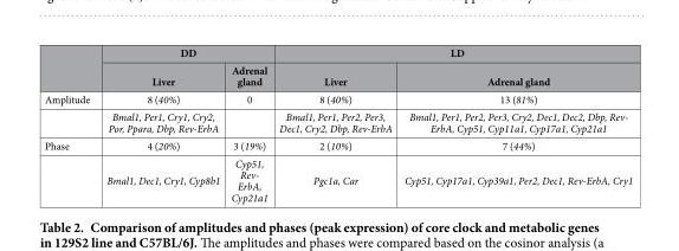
<table><thead><tr><td rowspan="2"></td><td colspan="2">DD</td><td colspan="2">LD</td></tr><tr><td>Liver</td><td>Adrenal gland</td><td>Liver</td><td>Adrenal gland</td></tr></thead><tbody><tr><td rowspan="2">Amplitude</td><td>8 (40%)</td><td>0</td><td>8 (40%)</td><td>13 (81%)</td></tr><tr><td>Bmal1, Per1, Cry1, Cry2, Por, Ppara, Dbp, Rev-ErbA</td><td></td><td>Bmal1, Per1, Per2, Per3, Dec1, Cry2, Dbp, Rev-ErbA</td><td>Bmal1, Per1, Per2, Per3, Cry2, Dec1, Dec2, Dbp, Rev- ErbA, Cyp51, Cyp11a1, Cyp17a1, Cyp21a1</td></tr><tr><td rowspan="2">Phase</td><td>4 (20%)</td><td>3 (19%)</td><td>2 (10%)</td><td>7 (44%)</td></tr><tr><td>Bmal1, Dec1, Cry1, Cyp8b1</td><td>Cyp51, Rev- ErbA, Cyp21a1</td><td>Pgc1a, Car</td><td>Cyp51, Cyp17a1, Cyp39a1, Per2, Dec1, Rev-ErbA, Cry1</td></tr></tbody></table>